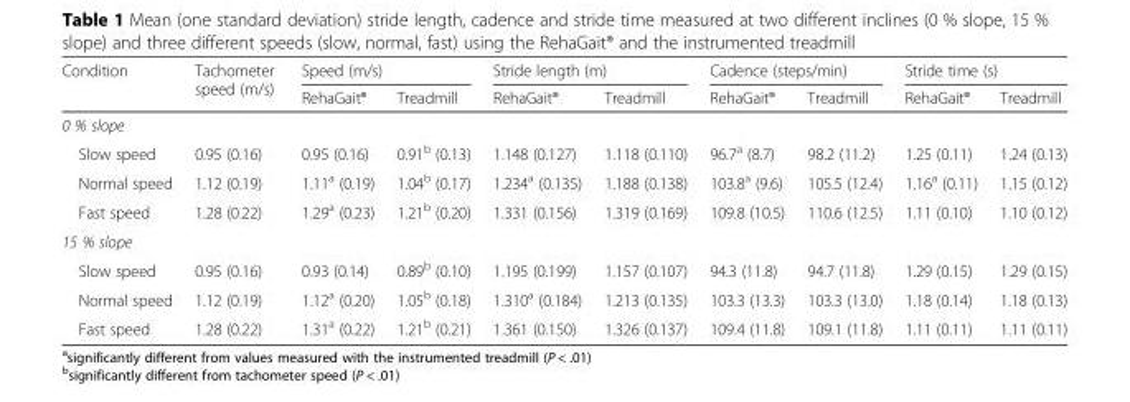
<table><thead><tr><td rowspan="2">Condition</td><td rowspan="2">Tachometer speed (m/s)</td><td colspan="2">Speed (m/s)</td><td colspan="2">Stride length (m)</td><td colspan="2">Cadence (steps/min)</td><td colspan="2">Stride time (s)</td></tr><tr><td>RehaGait®</td><td>Treadmill</td><td>RehaGait®</td><td>Treadmill</td><td>RehaGait®</td><td>Treadmill</td><td>RehaGait®</td><td>Treadmill</td></tr></thead><tbody><tr><td colspan="10">0 % slope</td></tr><tr><td>Slow speed</td><td>0.95 (0.16)</td><td>0.95 (0.16)</td><td>0.91<sup>b</sup> (0.13)</td><td>1.148 (0.127)</td><td>1.118 (0.110)</td><td>96.7<sup>a</sup> (8.7)</td><td>98.2 (11.2)</td><td>1.25 (0.11)</td><td>1.24 (0.13)</td></tr><tr><td>Normal speed</td><td>1.12 (0.19)</td><td>1.11<sup>a</sup> (0.19)</td><td>1.04<sup>b</sup> (0.17)</td><td>1.234<sup>a</sup> (0.135)</td><td>1.188 (0.138)</td><td>103.8<sup>a</sup> (9.6)</td><td>105.5 (12.4)</td><td>1.16<sup>a</sup> (0.11)</td><td>1.15 (0.12)</td></tr><tr><td>Fast speed</td><td>1.28 (0.22)</td><td>1.29<sup>a</sup> (0.23)</td><td>1.21<sup>b</sup> (0.20)</td><td>1.331 (0.156)</td><td>1.319 (0.169)</td><td>109.8 (10.5)</td><td>110.6 (12.5)</td><td>1.11 (0.10)</td><td>1.10 (0.12)</td></tr><tr><td colspan="10">15 % slope</td></tr><tr><td>Slow speed</td><td>0.95 (0.16)</td><td>0.93 (0.14)</td><td>0.89<sup>b</sup> (0.10)</td><td>1.195 (0.199)</td><td>1.157 (0.107)</td><td>94.3 (11.8)</td><td>94.7 (11.8)</td><td>1.29 (0.15)</td><td>1.29 (0.15)</td></tr><tr><td>Normal speed</td><td>1.12 (0.19)</td><td>1.12<sup>a</sup> (0.20)</td><td>1.05<sup>b</sup> (0.18)</td><td>1.310<sup>a</sup> (0.184)</td><td>1.213 (0.135)</td><td>103.3 (13.3)</td><td>103.3 (13.0)</td><td>1.18 (0.14)</td><td>1.18 (0.13)</td></tr><tr><td>Fast speed</td><td>1.28 (0.22)</td><td>1.31<sup>a</sup> (0.22)</td><td>1.21<sup>b</sup> (0.21)</td><td>1.361 (0.150)</td><td>1.326 (0.137)</td><td>109.4 (11.8)</td><td>109.1 (11.8)</td><td>1.11 (0.11)</td><td>1.11 (0.11)</td></tr></tbody></table>